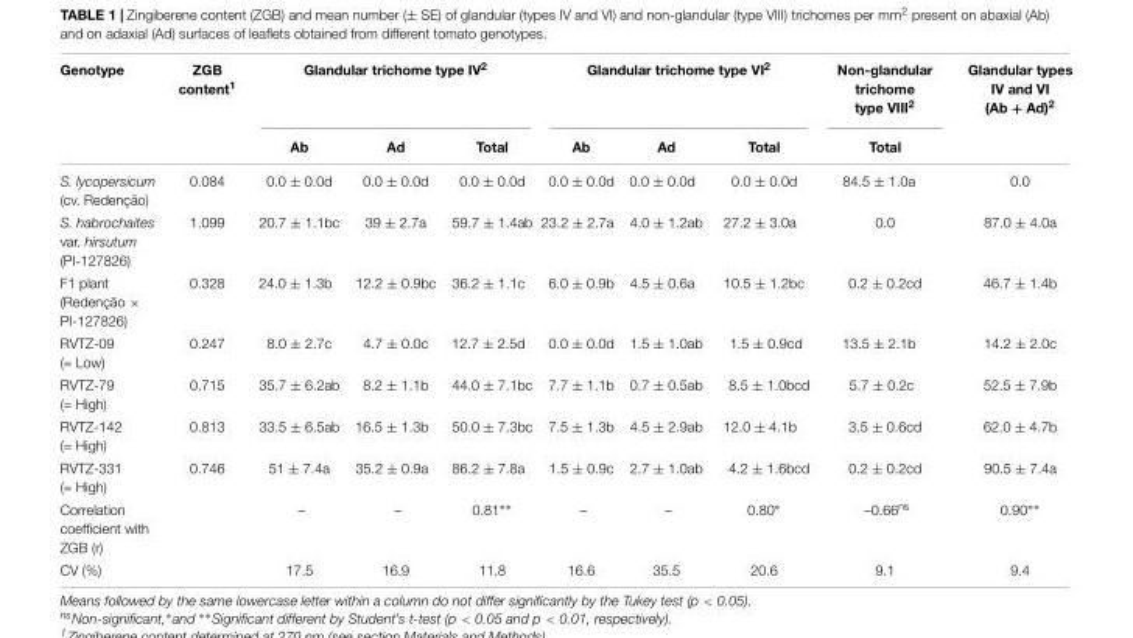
<table><thead><tr><td rowspan="2">Genotype</td><td rowspan="2">ZGB content<sup>1</sup></td><td colspan="3">Glandular trichome type IV<sup>2</sup></td><td colspan="3">Glandular trichome type VI<sup>2</sup></td><td rowspan="2">Non-glandular trichome type VIII<sup>2</sup> Total</td><td rowspan="2">Glandular types IV and VI (Ab + Ad)<sup>2</sup></td></tr><tr><td>Ab</td><td>Ad</td><td>Total</td><td>Ab</td><td>Ad</td><td>Total</td></tr></thead><tbody><tr><td>S. lycopersicum (cv. Redenção)</td><td>0.084</td><td>0.0 ± 0.0d</td><td>0.0 ± 0.0d</td><td>0.0 ± 0.0d</td><td>0.0 ± 0.0d</td><td>0.0 ± 0.0d</td><td>0.0 ± 0.0d</td><td>84.5 ± 1.0a</td><td>0.0</td></tr><tr><td>S. habrochaites var. hirsutum (PI-127826)</td><td>1.099</td><td>20.7 ± 1.1bc</td><td>39 ± 2.7a</td><td>59.7 ± 1.4ab</td><td>23.2 ± 2.7a</td><td>4.0 ± 1.2ab</td><td>27.2 ± 3.0a</td><td>0.0</td><td>87.0 ± 4.0a</td></tr><tr><td>F1 plant (Redenção × PI-127826)</td><td>0.328</td><td>24.0 ± 1.3b</td><td>12.2 ± 0.9bc</td><td>36.2 ± 1.1c</td><td>6.0 ± 0.9b</td><td>4.5 ± 0.6a</td><td>10.5 ± 1.2bc</td><td>0.2 ± 0.2cd</td><td>46.7 ± 1.4b</td></tr><tr><td>RVTZ-09 (= Low)</td><td>0.247</td><td>8.0 ± 2.7c</td><td>4.7 ± 0.0c</td><td>12.7 ± 2.5d</td><td>0.0 ± 0.0d</td><td>1.5 ± 1.0ab</td><td>1.5 ± 0.9cd</td><td>13.5 ± 2.1b</td><td>14.2 ± 2.0c</td></tr><tr><td>RVTZ-79 (= High)</td><td>0.715</td><td>35.7 ± 6.2ab</td><td>8.2 ± 1.1b</td><td>44.0 ± 7.1bc</td><td>7.7 ± 1.1b</td><td>0.7 ± 0.5ab</td><td>8.5 ± 1.0bcd</td><td>5.7 ± 0.2c</td><td>52.5 ± 7.9b</td></tr><tr><td>RVTZ-142 (= High)</td><td>0.813</td><td>33.5 ± 6.5ab</td><td>16.5 ± 1.3b</td><td>50.0 ± 7.3bc</td><td>7.5 ± 1.3b</td><td>4.5 ± 2.9ab</td><td>12.0 ± 4.1b</td><td>3.5 ± 0.6cd</td><td>62.0 ± 4.7b</td></tr><tr><td>RVTZ-331 (= High)</td><td>0.746</td><td>51 ± 7.4a</td><td>35.2 ± 0.9a</td><td>86.2 ± 7.8a</td><td>1.5 ± 0.9c</td><td>2.7 ± 1.0ab</td><td>4.2 ± 1.6bcd</td><td>0.2 ± 0.2cd</td><td>90.5 ± 7.4a</td></tr><tr><td>Correlation coefficient with ZGB (r)</td><td></td><td>–</td><td>–</td><td>0.81∗∗</td><td>–</td><td>–</td><td>0.80∗</td><td>–0.66<sup>ns</sup></td><td>0.90∗∗</td></tr><tr><td>CV (%)</td><td></td><td>17.5</td><td>16.9</td><td>11.8</td><td>16.6</td><td>35.5</td><td>20.6</td><td>9.1</td><td>9.4</td></tr></tbody></table>